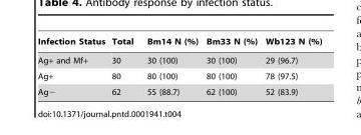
<table><thead><tr><td>Infection Status</td><td>Total</td><td>Bm14 N (%)</td><td>Bm33 N (%)</td><td>Wb123 N (%)</td></tr></thead><tbody><tr><td>Ag+ and Mf+</td><td>30</td><td>30 (100)</td><td>30 (100)</td><td>29 (96.7)</td></tr><tr><td>Ag+</td><td>80</td><td>80 (100)</td><td>80 (100)</td><td>78 (97.5)</td></tr><tr><td>Ag−</td><td>62</td><td>55 (88.7)</td><td>62 (100)</td><td>52 (83.9)</td></tr></tbody></table>